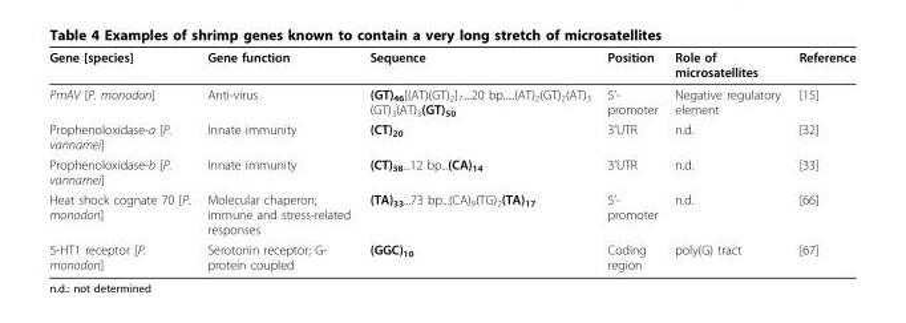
<table><thead><tr><td>Gene [species]</td><td>Gene function</td><td>Sequence</td><td>Position</td><td>Role of microsatellites</td><td>Reference</td></tr></thead><tbody><tr><td>PmAV [P. monodon]</td><td>Anti-virus</td><td>(GT)<sub>46</sub>[(AT)(GT)<sub>2</sub>]<sub>7</sub>....20 bp.....(AT)<sub>2</sub>(GT)<sub>2</sub>(AT)<sub>3</sub> (GT)<sub>3</sub>(AT)<sub>3</sub>(GT)<sub>50</sub></td><td>5’- promoter</td><td>Negative regulatory element</td><td>[15]</td></tr><tr><td>Prophenoloxidase-a [P. vannamei]</td><td>Innate immunity</td><td>(CT)<sub>20</sub></td><td>3’UTR</td><td>n.d.</td><td>[32]</td></tr><tr><td>Prophenoloxidase-b [P. vannamei]</td><td>Innate immunity</td><td>(CT)<sub>38</sub>...12 bp...(CA)<sub>14</sub></td><td>3’UTR</td><td>n.d.</td><td>[33]</td></tr><tr><td>Heat shock cognate 70 [P. monodon]</td><td>Molecular chaperon; immune and stress-related responses</td><td>(TA)<sub>33</sub>...73 bp...(CA)<sub>9</sub>(TG)<sub>2</sub>(TA)<sub>17</sub></td><td>5’- promoter</td><td>n.d.</td><td>[66]</td></tr><tr><td>5-HT1 receptor [P. monodon]</td><td>Serotonin receptor; G- protein coupled</td><td>(GGC)<sub>10</sub></td><td>Coding region</td><td>poly(G) tract</td><td>[67]</td></tr></tbody></table>